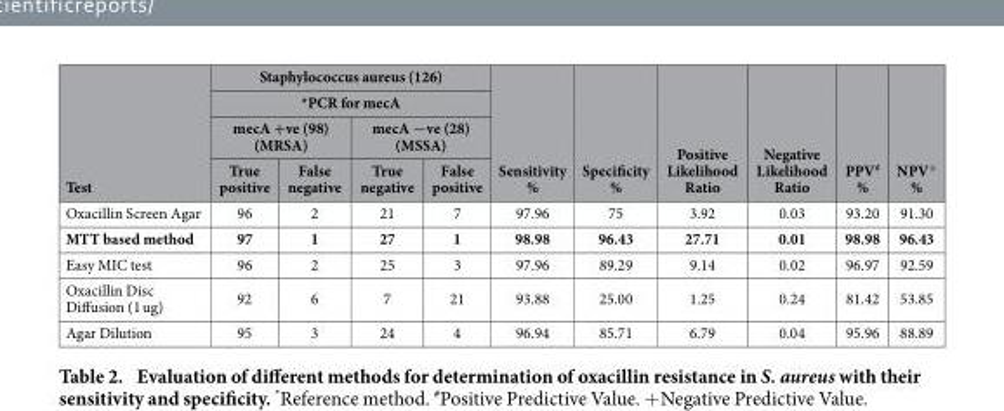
<table><thead><tr><td rowspan="4">Test</td><td rowspan="2" colspan="4">Staphylococcus aureus (126) *PCR for mecA</td><td rowspan="4">Sensitivity %</td><td rowspan="4">Specificity %</td><td rowspan="4">Positive Likelihood Ratio</td><td rowspan="4">Negative Likelihood Ratio</td><td rowspan="4">PPV# %</td><td rowspan="4">NPV+ %</td></tr><tr></tr><tr><td colspan="2">mecA +ve (98) (MRSA)</td><td colspan="2">mecA −ve (28) (MSSA)</td></tr><tr><td>True positive</td><td>False negative</td><td>True negative</td><td>False positive</td></tr></thead><tbody><tr><td>Oxacillin Screen Agar</td><td>96</td><td>2</td><td>21</td><td>7</td><td>97.96</td><td>75</td><td>3.92</td><td>0.03</td><td>93.20</td><td>91.30</td></tr><tr><td>MTT based method</td><td>97</td><td>1</td><td>27</td><td>1</td><td>98.98</td><td>96.43</td><td>27.71</td><td>0.01</td><td>98.98</td><td>96.43</td></tr><tr><td>Easy MIC test</td><td>96</td><td>2</td><td>25</td><td>3</td><td>97.96</td><td>89.29</td><td>9.14</td><td>0.02</td><td>96.97</td><td>92.59</td></tr><tr><td>Oxacillin Disc Diffusion (1 ug)</td><td>92</td><td>6</td><td>7</td><td>21</td><td>93.88</td><td>25.00</td><td>1.25</td><td>0.24</td><td>81.42</td><td>53.85</td></tr><tr><td>Agar Dilution</td><td>95</td><td>3</td><td>24</td><td>4</td><td>96.94</td><td>85.71</td><td>6.79</td><td>0.04</td><td>95.96</td><td>88.89</td></tr></tbody></table>